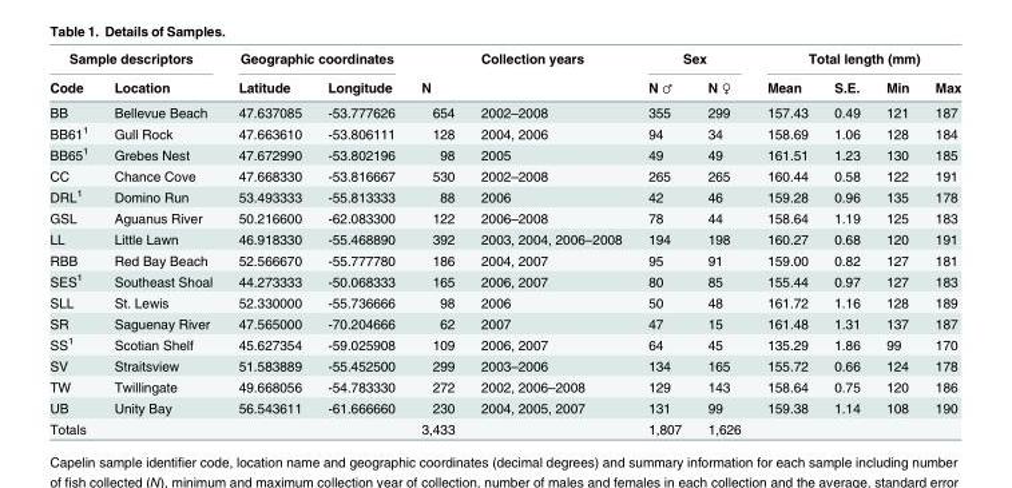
<table><thead><tr><td colspan="2">Sample descriptors</td><td colspan="2">Geographic coordinates</td><td rowspan="2">N</td><td rowspan="2">Collection years</td><td colspan="2">Sex</td><td colspan="4">Total length (mm)</td></tr><tr><td>Code</td><td>Location</td><td>Latitude</td><td>Longitude</td><td>N ♂</td><td>N ♀</td><td>Mean</td><td>S.E.</td><td>Min</td><td>Max</td></tr></thead><tbody><tr><td>BB</td><td>Bellevue Beach</td><td>47.637085</td><td>-53.777626</td><td>654</td><td>2002–2008</td><td>355</td><td>299</td><td>157.43</td><td>0.49</td><td>121</td><td>187</td></tr><tr><td>BB61<sup>1</sup></td><td>Gull Rock</td><td>47.663610</td><td>-53.806111</td><td>128</td><td>2004, 2006</td><td>94</td><td>34</td><td>158.69</td><td>1.06</td><td>128</td><td>184</td></tr><tr><td>BB65<sup>1</sup></td><td>Grebes Nest</td><td>47.672990</td><td>-53.802196</td><td>98</td><td>2005</td><td>49</td><td>49</td><td>161.51</td><td>1.23</td><td>130</td><td>185</td></tr><tr><td>CC</td><td>Chance Cove</td><td>47.668330</td><td>-53.816667</td><td>530</td><td>2002–2008</td><td>265</td><td>265</td><td>160.44</td><td>0.58</td><td>122</td><td>191</td></tr><tr><td>DRL<sup>1</sup></td><td>Domino Run</td><td>53.493333</td><td>-55.813333</td><td>88</td><td>2006</td><td>42</td><td>46</td><td>159.28</td><td>0.96</td><td>135</td><td>178</td></tr><tr><td>GSL</td><td>Aguanus River</td><td>50.216600</td><td>-62.083300</td><td>122</td><td>2006–2008</td><td>78</td><td>44</td><td>158.64</td><td>1.19</td><td>125</td><td>183</td></tr><tr><td>LL</td><td>Little Lawn</td><td>46.918330</td><td>-55.468890</td><td>392</td><td>2003, 2004, 2006–2008</td><td>194</td><td>198</td><td>160.27</td><td>0.68</td><td>120</td><td>191</td></tr><tr><td>RBB</td><td>Red Bay Beach</td><td>52.566670</td><td>-55.777780</td><td>186</td><td>2004, 2007</td><td>95</td><td>91</td><td>159.00</td><td>0.82</td><td>127</td><td>181</td></tr><tr><td>SES<sup>1</sup></td><td>Southeast Shoal</td><td>44.273333</td><td>-50.068333</td><td>165</td><td>2006, 2007</td><td>80</td><td>85</td><td>155.44</td><td>0.97</td><td>127</td><td>183</td></tr><tr><td>SLL</td><td>St. Lewis</td><td>52.330000</td><td>-55.736666</td><td>98</td><td>2006</td><td>50</td><td>48</td><td>161.72</td><td>1.16</td><td>128</td><td>189</td></tr><tr><td>SR</td><td>Saguenay River</td><td>47.565000</td><td>-70.204666</td><td>62</td><td>2007</td><td>47</td><td>15</td><td>161.48</td><td>1.31</td><td>137</td><td>187</td></tr><tr><td>SS<sup>1</sup></td><td>Scotian Shelf</td><td>45.627354</td><td>-59.025908</td><td>109</td><td>2006, 2007</td><td>64</td><td>45</td><td>135.29</td><td>1.86</td><td>99</td><td>170</td></tr><tr><td>SV</td><td>Straitsview</td><td>51.583889</td><td>-55.452500</td><td>299</td><td>2003–2006</td><td>134</td><td>165</td><td>155.72</td><td>0.66</td><td>124</td><td>178</td></tr><tr><td>TW</td><td>Twillingate</td><td>49.668056</td><td>-54.783330</td><td>272</td><td>2002, 2006–2008</td><td>129</td><td>143</td><td>158.64</td><td>0.75</td><td>120</td><td>186</td></tr><tr><td>UB</td><td>Unity Bay</td><td>56.543611</td><td>-61.666660</td><td>230</td><td>2004, 2005, 2007</td><td>131</td><td>99</td><td>159.38</td><td>1.14</td><td>108</td><td>190</td></tr><tr><td>Totals</td><td></td><td></td><td></td><td>3,433</td><td></td><td>1,807</td><td>1,626</td><td></td><td></td><td></td><td></td></tr></tbody></table>